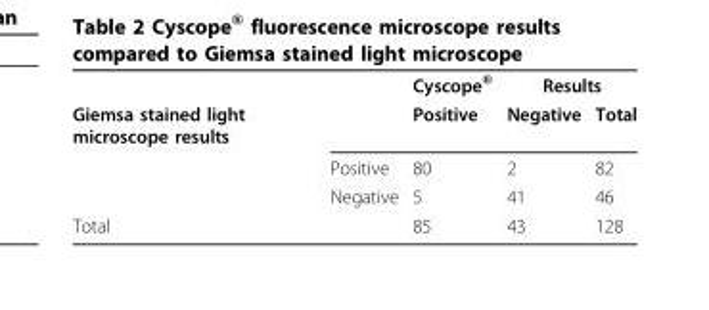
<table><thead><tr><td rowspan="2">Giemsa stained light microscope results</td><td rowspan="2"></td><td rowspan="2">Cyscope® Positive</td><td colspan="2">Results</td></tr><tr><td>Negative</td><td>Total</td></tr></thead><tbody><tr><td></td><td>Positive</td><td>80</td><td>2</td><td>82</td></tr><tr><td></td><td>Negative</td><td>5</td><td>41</td><td>46</td></tr><tr><td>Total</td><td></td><td>85</td><td>43</td><td>128</td></tr></tbody></table>